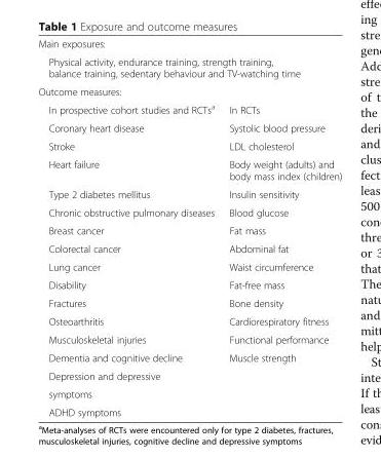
<table><tbody><tr><td colspan="2">Main exposures:</td></tr><tr><td colspan="2">Physical activity, endurance training, strength training, balance training, sedentary behaviour and TV-watching time</td></tr><tr><td colspan="2">Outcome measures:</td></tr><tr><td>In prospective cohort studies and RCTs<sup>a</sup></td><td>In RCTs</td></tr><tr><td>Coronary heart disease</td><td>Systolic blood pressure</td></tr><tr><td>Stroke</td><td>LDL cholesterol</td></tr><tr><td>Heart failure</td><td>Body weight (adults) and body mass index (children)</td></tr><tr><td>Type 2 diabetes mellitus</td><td>Insulin sensitivity</td></tr><tr><td>Chronic obstructive pulmonary diseases</td><td>Blood glucose</td></tr><tr><td>Breast cancer</td><td>Fat mass</td></tr><tr><td>Colorectal cancer</td><td>Abdominal fat</td></tr><tr><td>Lung cancer</td><td>Waist circumference</td></tr><tr><td>Disability</td><td>Fat-free mass</td></tr><tr><td>Fractures</td><td>Bone density</td></tr><tr><td>Osteoarthritis</td><td>Cardiorespiratory fitness</td></tr><tr><td>Musculoskeletal injuries</td><td>Functional performance</td></tr><tr><td>Dementia and cognitive decline</td><td>Muscle strength</td></tr><tr><td colspan="2">Depression and depressive</td></tr><tr><td colspan="2">symptoms</td></tr><tr><td colspan="2">ADHD symptoms</td></tr></tbody></table>